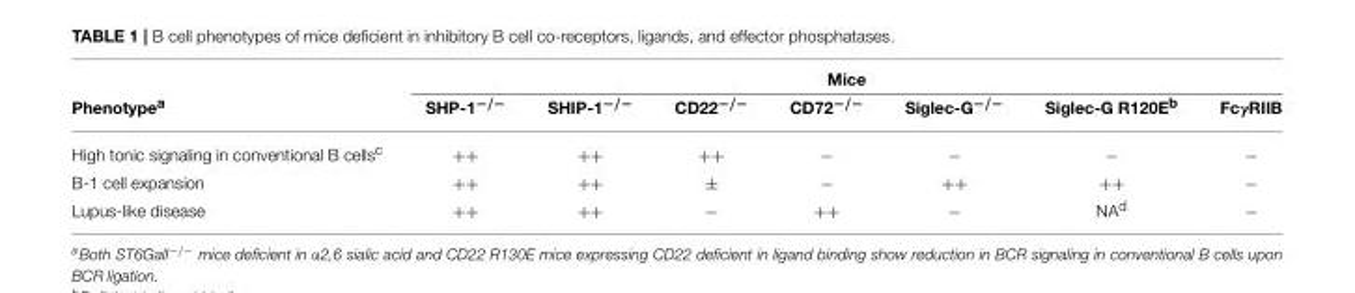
<table><thead><tr><td rowspan="2">Phenotype<sup>a</sup></td><td colspan="7">Mice</td></tr><tr><td>SHP-1<sup>−/−</sup></td><td>SHIP-1<sup>−/−</sup></td><td>CD22<sup>−/−</sup></td><td>CD72<sup>−/−</sup></td><td>Siglec-G<sup>−/−</sup></td><td>Siglec-G R120E<sup>b</sup></td><td>FcγRIIB</td></tr></thead><tbody><tr><td>High tonic signaling in conventional B cells<sup>c</sup></td><td>++</td><td>++</td><td>++</td><td>−</td><td>−</td><td>−</td><td>−</td></tr><tr><td>B-1 cell expansion</td><td>++</td><td>++</td><td>±</td><td>−</td><td>++</td><td>++</td><td>−</td></tr><tr><td>Lupus-like disease</td><td>++</td><td>++</td><td>−</td><td>++</td><td>−</td><td>NAd</td><td>−</td></tr></tbody></table>